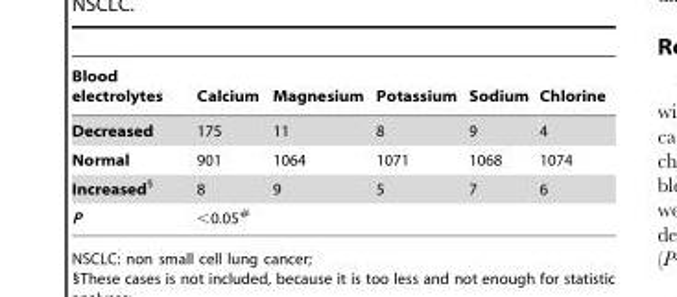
<table><thead><tr><td>Blood electrolytes</td><td>Calcium</td><td>Magnesium</td><td>Potassium</td><td>Sodium</td><td>Chlorine</td></tr></thead><tbody><tr><td>Decreased</td><td>175</td><td>11</td><td>8</td><td>9</td><td>4</td></tr><tr><td>Normal</td><td>901</td><td>1064</td><td>1071</td><td>1068</td><td>1074</td></tr><tr><td>Increased§</td><td>8</td><td>9</td><td>5</td><td>7</td><td>6</td></tr><tr><td>P</td><td>&lt;0.05#</td><td></td><td></td><td></td><td></td></tr></tbody></table>